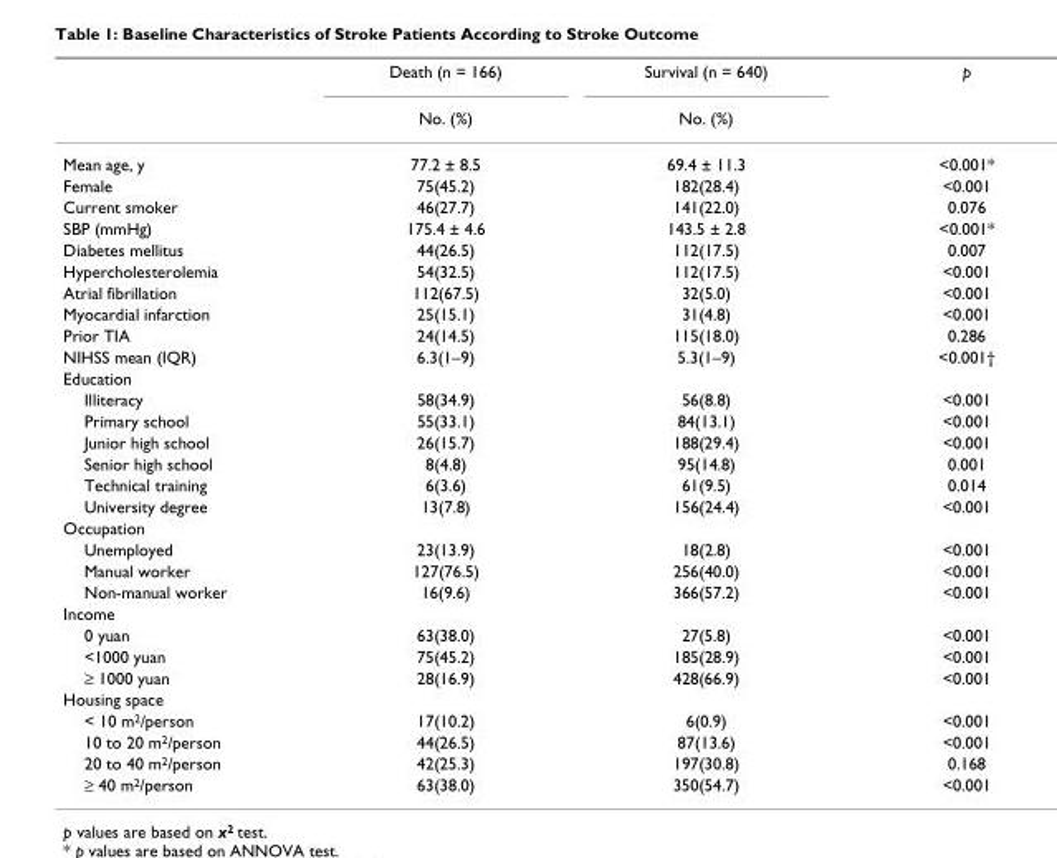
<table><thead><tr><td rowspan="2"></td><td rowspan="2">Death (n = 166) No. (%)</td><td rowspan="2">Survival (n = 640) No. (%)</td><td rowspan="2">p</td></tr><tr></tr></thead><tbody><tr><td>Mean age, y</td><td>77.2 ± 8.5</td><td>69.4 ± 11.3</td><td>&lt;0.001*</td></tr><tr><td>Female</td><td>75(45.2)</td><td>182(28.4)</td><td>&lt;0.001</td></tr><tr><td>Current smoker</td><td>46(27.7)</td><td>141(22.0)</td><td>0.076</td></tr><tr><td>SBP (mmHg)</td><td>175.4 ± 4.6</td><td>143.5 ± 2.8</td><td>&lt;0.001*</td></tr><tr><td>Diabetes mellitus</td><td>44(26.5)</td><td>112(17.5)</td><td>0.007</td></tr><tr><td>Hypercholesterolemia</td><td>54(32.5)</td><td>112(17.5)</td><td>&lt;0.001</td></tr><tr><td>Atrial fibrillation</td><td>112(67.5)</td><td>32(5.0)</td><td>&lt;0.001</td></tr><tr><td>Myocardial infarction</td><td>25(15.1)</td><td>31(4.8)</td><td>&lt;0.001</td></tr><tr><td>Prior TIA</td><td>24(14.5)</td><td>115(18.0)</td><td>0.286</td></tr><tr><td>NIHSS mean (IQR)</td><td>6.3(1–9)</td><td>5.3(1–9)</td><td>&lt;0.001†</td></tr><tr><td colspan="4">Education</td></tr><tr><td>Illiteracy</td><td>58(34.9)</td><td>56(8.8)</td><td>&lt;0.001</td></tr><tr><td>Primary school</td><td>55(33.1)</td><td>84(13.1)</td><td>&lt;0.001</td></tr><tr><td>Junior high school</td><td>26(15.7)</td><td>188(29.4)</td><td>&lt;0.001</td></tr><tr><td>Senior high school</td><td>8(4.8)</td><td>95(14.8)</td><td>0.001</td></tr><tr><td>Technical training</td><td>6(3.6)</td><td>61(9.5)</td><td>0.014</td></tr><tr><td>University degree</td><td>13(7.8)</td><td>156(24.4)</td><td>&lt;0.001</td></tr><tr><td colspan="4">Occupation</td></tr><tr><td>Unemployed</td><td>23(13.9)</td><td>18(2.8)</td><td>&lt;0.001</td></tr><tr><td>Manual worker</td><td>127(76.5)</td><td>256(40.0)</td><td>&lt;0.001</td></tr><tr><td>Non-manual worker</td><td>16(9.6)</td><td>366(57.2)</td><td>&lt;0.001</td></tr><tr><td colspan="4">Income</td></tr><tr><td>0 yuan</td><td>63(38.0)</td><td>27(5.8)</td><td>&lt;0.001</td></tr><tr><td>&lt;1000 yuan</td><td>75(45.2)</td><td>185(28.9)</td><td>&lt;0.001</td></tr><tr><td>≥ 1000 yuan</td><td>28(16.9)</td><td>428(66.9)</td><td>&lt;0.001</td></tr><tr><td colspan="4">Housing space</td></tr><tr><td>&lt; 10 m2/person</td><td>17(10.2)</td><td>6(0.9)</td><td>&lt;0.001</td></tr><tr><td>10 to 20 m2/person</td><td>44(26.5)</td><td>87(13.6)</td><td>&lt;0.001</td></tr><tr><td>20 to 40 m2/person</td><td>42(25.3)</td><td>197(30.8)</td><td>0.168</td></tr><tr><td>≥ 40 m2/person</td><td>63(38.0)</td><td>350(54.7)</td><td>&lt;0.001</td></tr></tbody></table>